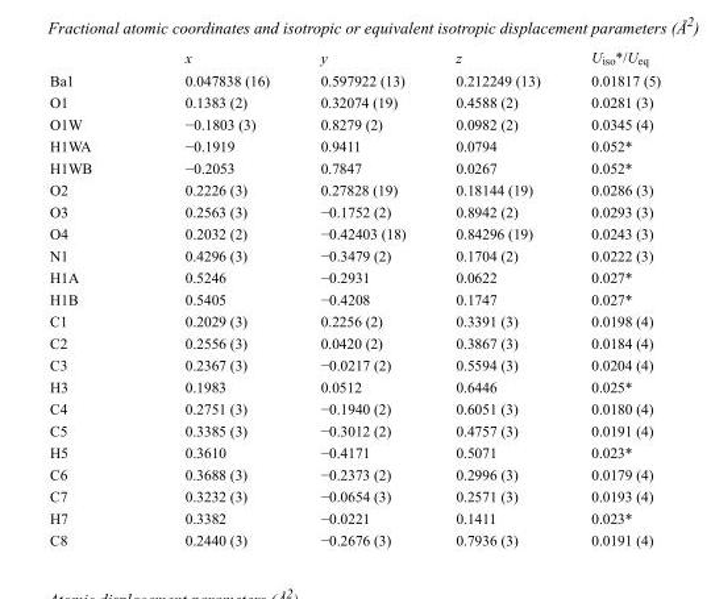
<table><thead><tr><td></td><td>x</td><td>y</td><td>z</td><td>U<sub>iso</sub>*/U<sub>eq</sub></td></tr></thead><tbody><tr><td>Ba1</td><td>0.047838 (16)</td><td>0.597922 (13)</td><td>0.212249 (13)</td><td>0.01817 (5)</td></tr><tr><td>O1</td><td>0.1383 (2)</td><td>0.32074 (19)</td><td>0.4588 (2)</td><td>0.0281 (3)</td></tr><tr><td>O1W</td><td>−0.1803 (3)</td><td>0.8279 (2)</td><td>0.0982 (2)</td><td>0.0345 (4)</td></tr><tr><td>H1WA</td><td>−0.1919</td><td>0.9411</td><td>0.0794</td><td>0.052*</td></tr><tr><td>H1WB</td><td>−0.2053</td><td>0.7847</td><td>0.0267</td><td>0.052*</td></tr><tr><td>O2</td><td>0.2226 (3)</td><td>0.27828 (19)</td><td>0.18144 (19)</td><td>0.0286 (3)</td></tr><tr><td>O3</td><td>0.2563 (3)</td><td>−0.1752 (2)</td><td>0.8942 (2)</td><td>0.0293 (3)</td></tr><tr><td>O4</td><td>0.2032 (2)</td><td>−0.42403 (18)</td><td>0.84296 (19)</td><td>0.0243 (3)</td></tr><tr><td>N1</td><td>0.4296 (3)</td><td>−0.3479 (2)</td><td>0.1704 (2)</td><td>0.0222 (3)</td></tr><tr><td>H1A</td><td>0.5246</td><td>−0.2931</td><td>0.0622</td><td>0.027*</td></tr><tr><td>H1B</td><td>0.5405</td><td>−0.4208</td><td>0.1747</td><td>0.027*</td></tr><tr><td>C1</td><td>0.2029 (3)</td><td>0.2256 (2)</td><td>0.3391 (3)</td><td>0.0198 (4)</td></tr><tr><td>C2</td><td>0.2556 (3)</td><td>0.0420 (2)</td><td>0.3867 (3)</td><td>0.0184 (4)</td></tr><tr><td>C3</td><td>0.2367 (3)</td><td>−0.0217 (2)</td><td>0.5594 (3)</td><td>0.0204 (4)</td></tr><tr><td>H3</td><td>0.1983</td><td>0.0512</td><td>0.6446</td><td>0.025*</td></tr><tr><td>C4</td><td>0.2751 (3)</td><td>−0.1940 (2)</td><td>0.6051 (3)</td><td>0.0180 (4)</td></tr><tr><td>C5</td><td>0.3385 (3)</td><td>−0.3012 (2)</td><td>0.4757 (3)</td><td>0.0191 (4)</td></tr><tr><td>H5</td><td>0.3610</td><td>−0.4171</td><td>0.5071</td><td>0.023*</td></tr><tr><td>C6</td><td>0.3688 (3)</td><td>−0.2373 (2)</td><td>0.2996 (3)</td><td>0.0179 (4)</td></tr><tr><td>C7</td><td>0.3232 (3)</td><td>−0.0654 (3)</td><td>0.2571 (3)</td><td>0.0193 (4)</td></tr><tr><td>H7</td><td>0.3382</td><td>−0.0221</td><td>0.1411</td><td>0.023*</td></tr><tr><td>C8</td><td>0.2440 (3)</td><td>−0.2676 (3)</td><td>0.7936 (3)</td><td>0.0191 (4)</td></tr></tbody></table>